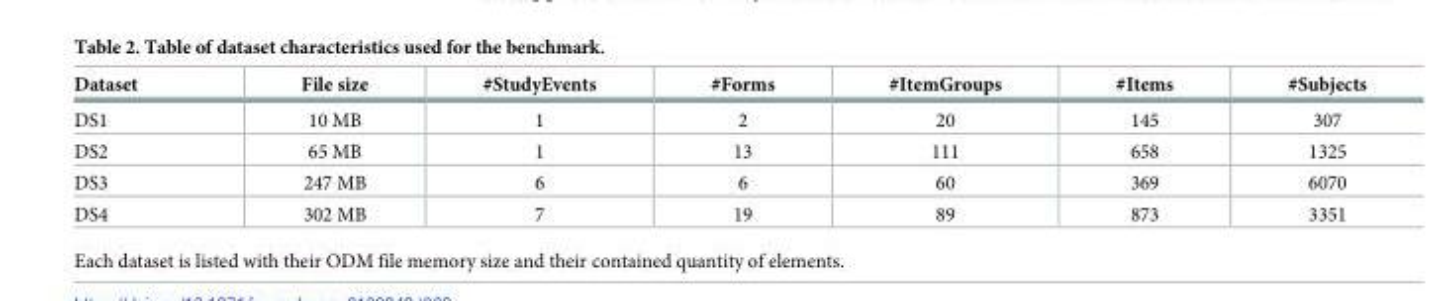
<table><thead><tr><td>Dataset</td><td>File size</td><td>#StudyEvents</td><td>#Forms</td><td>#ItemGroups</td><td>#Items</td><td>#Subjects</td></tr></thead><tbody><tr><td>DS1</td><td>10 MB</td><td>1</td><td>2</td><td>20</td><td>145</td><td>307</td></tr><tr><td>DS2</td><td>65 MB</td><td>1</td><td>13</td><td>111</td><td>658</td><td>1325</td></tr><tr><td>DS3</td><td>247 MB</td><td>6</td><td>6</td><td>60</td><td>369</td><td>6070</td></tr><tr><td>DS4</td><td>302 MB</td><td>7</td><td>19</td><td>89</td><td>873</td><td>3351</td></tr></tbody></table>